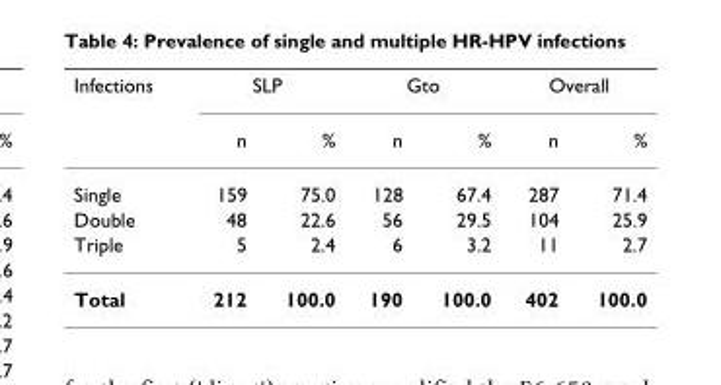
<table><thead><tr><td rowspan="2">Infections</td><td colspan="2">SLP</td><td colspan="2">Gto</td><td colspan="2">Overall</td></tr><tr><td>n</td><td>%</td><td>n</td><td>%</td><td>n</td><td>%</td></tr></thead><tbody><tr><td>Single</td><td>159</td><td>75.0</td><td>128</td><td>67.4</td><td>287</td><td>71.4</td></tr><tr><td>Double</td><td>48</td><td>22.6</td><td>56</td><td>29.5</td><td>104</td><td>25.9</td></tr><tr><td>Triple</td><td>5</td><td>2.4</td><td>6</td><td>3.2</td><td>11</td><td>2.7</td></tr><tr><td>Total</td><td>212</td><td>100.0</td><td>190</td><td>100.0</td><td>402</td><td>100.0</td></tr></tbody></table>